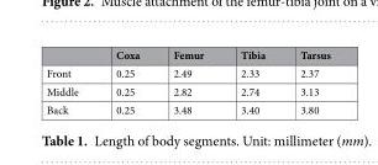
<table><thead><tr><td></td><td>Coxa</td><td>Femur</td><td>Tibia</td><td>Tarsus</td></tr></thead><tbody><tr><td>Front</td><td>0.25</td><td>2.49</td><td>2.33</td><td>2.37</td></tr><tr><td>Middle</td><td>0.25</td><td>2.82</td><td>2.74</td><td>3.13</td></tr><tr><td>Back</td><td>0.25</td><td>3.48</td><td>3.40</td><td>3.80</td></tr></tbody></table>